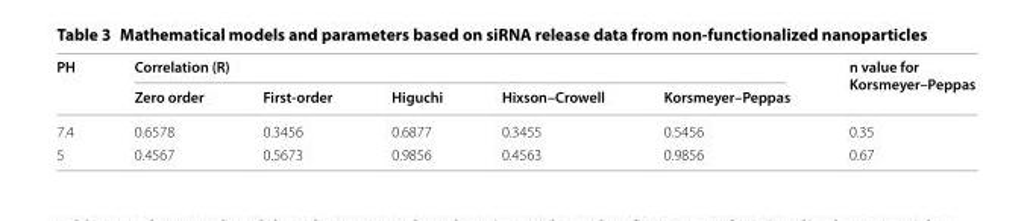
<table><thead><tr><td rowspan="2">PH</td><td colspan="5">Correlation (R)</td><td rowspan="2">n value for Korsmeyer–Peppas</td></tr><tr><td>Zero order</td><td>First‑order</td><td>Higuchi</td><td>Hixson–Crowell</td><td>Korsmeyer–Peppas</td></tr></thead><tbody><tr><td>7.4</td><td>0.6578</td><td>0.3456</td><td>0.6877</td><td>0.3455</td><td>0.5456</td><td>0.35</td></tr><tr><td>5</td><td>0.4567</td><td>0.5673</td><td>0.9856</td><td>0.4563</td><td>0.9856</td><td>0.67</td></tr></tbody></table>